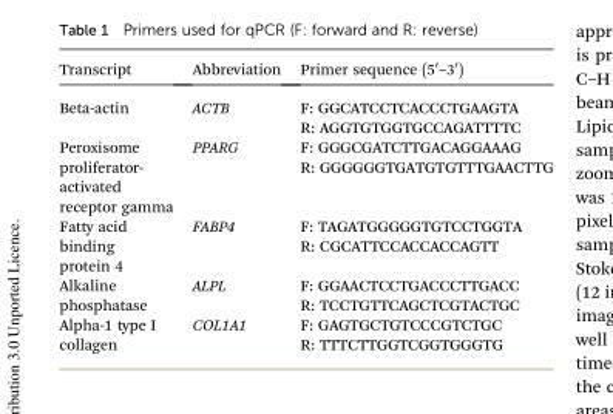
<table><thead><tr><td>Transcript</td><td>Abbreviation</td><td>Primer sequence (5′–3′)</td></tr></thead><tbody><tr><td rowspan="2">Beta-actin</td><td rowspan="2">ACTB</td><td>F: GGCATCCTCACCCTGAAGTA</td></tr><tr><td>R: AGGTGTGGTGCCAGATTTTC</td></tr><tr><td rowspan="2">Peroxisome proliferator- activated receptor gamma</td><td rowspan="2">PPARG</td><td>F: GGGCGATCTTGACAGGAAAG</td></tr><tr><td>R: GGGGGGTGATGTGTTTGAACTTG</td></tr><tr><td rowspan="2">Fatty acid binding protein 4</td><td rowspan="2">FABP4</td><td>F: TAGATGGGGGTGTCCTGGTA</td></tr><tr><td>R: CGCATTCCACCACCAGTT</td></tr><tr><td rowspan="2">Alkaline phosphatase</td><td rowspan="2">ALPL</td><td>F: GGAACTCCTGACCCTTGACC</td></tr><tr><td>R: TCCTGTTCAGCTCGTACTGC</td></tr><tr><td rowspan="2">Alpha-1 type I collagen</td><td rowspan="2">COL1A1</td><td>F: GAGTGCTGTCCCGTCTGC</td></tr><tr><td>R: TTTCTTGGTCGGTGGGTG</td></tr></tbody></table>